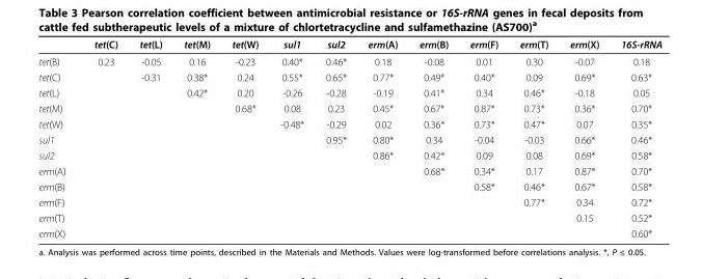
<table><thead><tr><td></td><td>tet(C)</td><td>tet(L)</td><td>tet(M)</td><td>tet(W)</td><td>sul1</td><td>sul2</td><td>erm(A)</td><td>erm(B)</td><td>erm(F)</td><td>erm(T)</td><td>erm(X)</td><td>16S-rRNA</td></tr></thead><tbody><tr><td>tet(B)</td><td>0.23</td><td>-0.05</td><td>0.16</td><td>-0.23</td><td>0.40*</td><td>0.46*</td><td>0.18</td><td>-0.08</td><td>0.01</td><td>0.30</td><td>-0.07</td><td>0.18</td></tr><tr><td>tet(C)</td><td></td><td>-0.31</td><td>0.38*</td><td>0.24</td><td>0.55*</td><td>0.65*</td><td>0.77*</td><td>0.49*</td><td>0.40*</td><td>0.09</td><td>0.69*</td><td>0.63*</td></tr><tr><td>tet(L)</td><td></td><td></td><td>0.42*</td><td>0.20</td><td>-0.26</td><td>-0.28</td><td>-0.19</td><td>0.41*</td><td>0.34</td><td>0.46*</td><td>-0.18</td><td>0.05</td></tr><tr><td>tet(M)</td><td></td><td></td><td></td><td>0.68*</td><td>0.08</td><td>0.23</td><td>0.45*</td><td>0.67*</td><td>0.87*</td><td>0.73*</td><td>0.36*</td><td>0.70*</td></tr><tr><td>tet(W)</td><td></td><td></td><td></td><td></td><td>-0.48*</td><td>-0.29</td><td>0.02</td><td>0.36*</td><td>0.73*</td><td>0.47*</td><td>0.07</td><td>0.35*</td></tr><tr><td>sul1</td><td></td><td></td><td></td><td></td><td></td><td>0.95*</td><td>0.80*</td><td>0.34</td><td>-0.04</td><td>-0.03</td><td>0.66*</td><td>0.46*</td></tr><tr><td>sul2</td><td></td><td></td><td></td><td></td><td></td><td></td><td>0.86*</td><td>0.42*</td><td>0.09</td><td>0.08</td><td>0.69*</td><td>0.58*</td></tr><tr><td>erm(A)</td><td></td><td></td><td></td><td></td><td></td><td></td><td></td><td>0.68*</td><td>0.34*</td><td>0.17</td><td>0.87*</td><td>0.70*</td></tr><tr><td>erm(B)</td><td></td><td></td><td></td><td></td><td></td><td></td><td></td><td></td><td>0.58*</td><td>0.46*</td><td>0.67*</td><td>0.58*</td></tr><tr><td>erm(F)</td><td></td><td></td><td></td><td></td><td></td><td></td><td></td><td></td><td></td><td>0.77*</td><td>0.34</td><td>0.72*</td></tr><tr><td>erm(T)</td><td></td><td></td><td></td><td></td><td></td><td></td><td></td><td></td><td></td><td></td><td>0.15</td><td>0.52*</td></tr><tr><td>erm(X)</td><td></td><td></td><td></td><td></td><td></td><td></td><td></td><td></td><td></td><td></td><td></td><td>0.60*</td></tr></tbody></table>